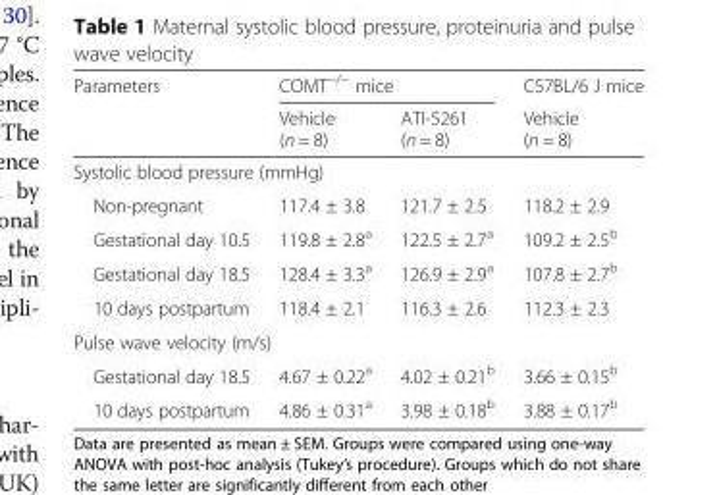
<table><thead><tr><td rowspan="2">Parameters</td><td colspan="2">COMT<sup>−/−</sup> mice</td><td rowspan="2">C57BL/6 J mice Vehicle (n = 8)</td></tr><tr><td>Vehicle (n = 8)</td><td>ATI-5261 (n = 8)</td></tr></thead><tbody><tr><td colspan="4">Systolic blood pressure (mmHg)</td></tr><tr><td>Non-pregnant</td><td>117.4 ± 3.8</td><td>121.7 ± 2.5</td><td>118.2 ± 2.9</td></tr><tr><td>Gestational day 10.5</td><td>119.8 ± 2.8<sup>a</sup></td><td>122.5 ± 2.7<sup>a</sup></td><td>109.2 ± 2.5<sup>b</sup></td></tr><tr><td>Gestational day 18.5</td><td>128.4 ± 3.3<sup>a</sup></td><td>126.9 ± 2.9<sup>a</sup></td><td>107.8 ± 2.7<sup>b</sup></td></tr><tr><td>10 days postpartum</td><td>118.4 ± 2.1</td><td>116.3 ± 2.6</td><td>112.3 ± 2.3</td></tr><tr><td colspan="4">Pulse wave velocity (m/s)</td></tr><tr><td>Gestational day 18.5</td><td>4.67 ± 0.22<sup>a</sup></td><td>4.02 ± 0.21<sup>b</sup></td><td>3.66 ± 0.15<sup>b</sup></td></tr><tr><td>10 days postpartum</td><td>4.86 ± 0.31<sup>a</sup></td><td>3.98 ± 0.18<sup>b</sup></td><td>3.88 ± 0.17<sup>b</sup></td></tr></tbody></table>